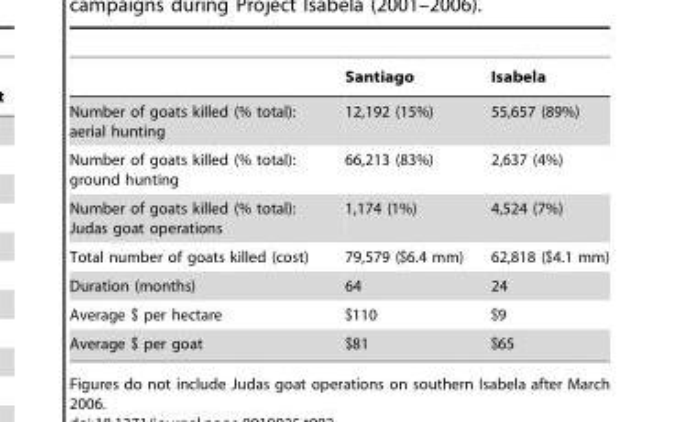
<table><thead><tr><td></td><td>Santiago</td><td>Isabela</td></tr></thead><tbody><tr><td>Number of goats killed (% total): aerial hunting</td><td>12,192 (15%)</td><td>55,657 (89%)</td></tr><tr><td>Number of goats killed (% total): ground hunting</td><td>66,213 (83%)</td><td>2,637 (4%)</td></tr><tr><td>Number of goats killed (% total): Judas goat operations</td><td>1,174 (1%)</td><td>4,524 (7%)</td></tr><tr><td>Total number of goats killed (cost)</td><td>79,579 ($6.4 mm)</td><td>62,818 ($4.1 mm)</td></tr><tr><td>Duration (months)</td><td>64</td><td>24</td></tr><tr><td>Average $ per hectare</td><td>$110</td><td>$9</td></tr><tr><td>Average $ per goat</td><td>$81</td><td>$65</td></tr></tbody></table>